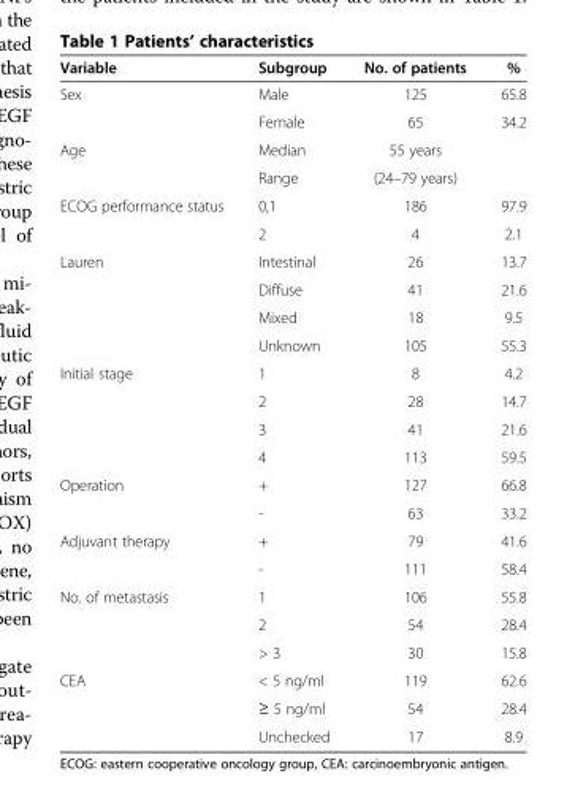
<table><thead><tr><td>Variable</td><td>Subgroup</td><td>No. of patients</td><td>%</td></tr></thead><tbody><tr><td rowspan="2">Sex</td><td>Male</td><td>125</td><td>65.8</td></tr><tr><td>Female</td><td>65</td><td>34.2</td></tr><tr><td rowspan="2">Age</td><td>Median</td><td>55 years</td><td></td></tr><tr><td>Range</td><td>(24–79 years)</td><td></td></tr><tr><td rowspan="2">ECOG performance status</td><td>0,1</td><td>186</td><td>97.9</td></tr><tr><td>2</td><td>4</td><td>2.1</td></tr><tr><td rowspan="4">Lauren</td><td>Intestinal</td><td>26</td><td>13.7</td></tr><tr><td>Diffuse</td><td>41</td><td>21.6</td></tr><tr><td>Mixed</td><td>18</td><td>9.5</td></tr><tr><td>Unknown</td><td>105</td><td>55.3</td></tr><tr><td rowspan="4">Initial stage</td><td>1</td><td>8</td><td>4.2</td></tr><tr><td>2</td><td>28</td><td>14.7</td></tr><tr><td>3</td><td>41</td><td>21.6</td></tr><tr><td>4</td><td>113</td><td>59.5</td></tr><tr><td rowspan="2">Operation</td><td>+</td><td>127</td><td>66.8</td></tr><tr><td>-</td><td>63</td><td>33.2</td></tr><tr><td rowspan="2">Adjuvant therapy</td><td>+</td><td>79</td><td>41.6</td></tr><tr><td>-</td><td>111</td><td>58.4</td></tr><tr><td rowspan="3">No. of metastasis</td><td>1</td><td>106</td><td>55.8</td></tr><tr><td>2</td><td>54</td><td>28.4</td></tr><tr><td>&gt; 3</td><td>30</td><td>15.8</td></tr><tr><td rowspan="3">CEA</td><td>&lt; 5 ng/ml</td><td>119</td><td>62.6</td></tr><tr><td>≥ 5 ng/ml</td><td>54</td><td>28.4</td></tr><tr><td>Unchecked</td><td>17</td><td>8.9</td></tr></tbody></table>